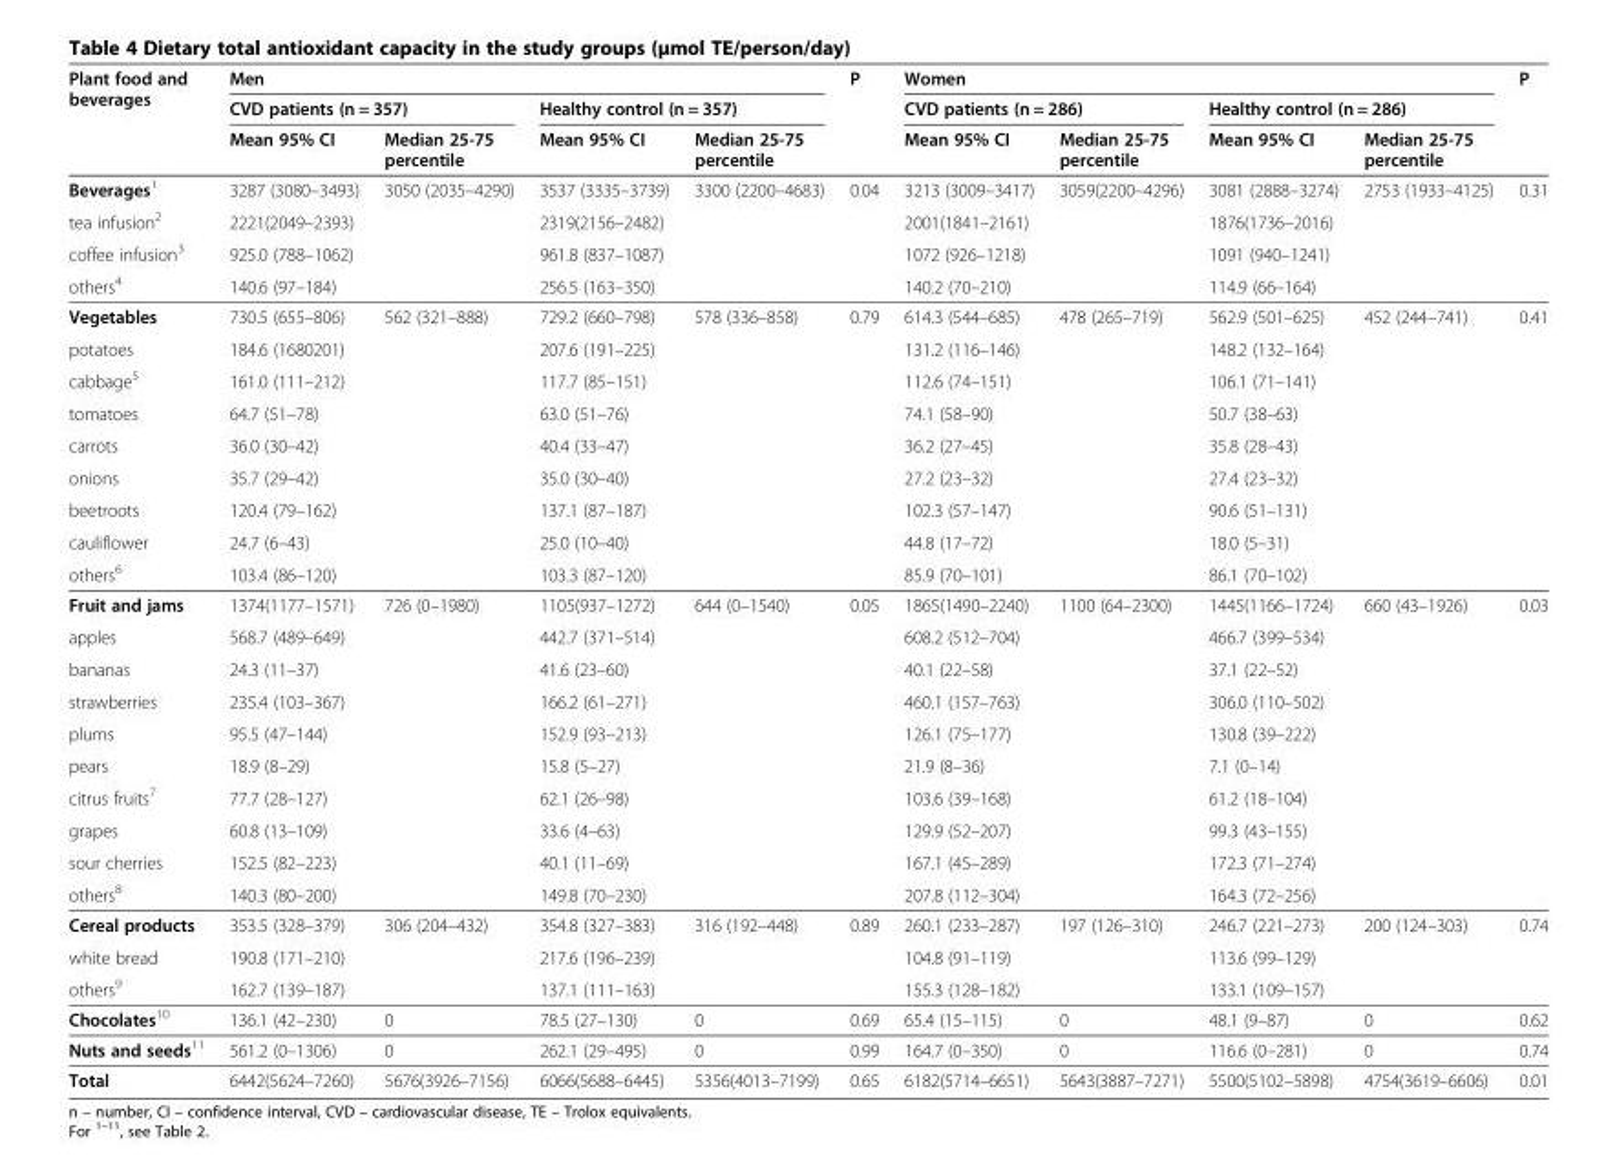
<table><thead><tr><td rowspan="3">Plant food and beverages</td><td colspan="4">Men</td><td rowspan="3">P</td><td colspan="4">Women</td><td rowspan="3">P</td></tr><tr><td colspan="2">CVD patients (n = 357)</td><td colspan="2">Healthy control (n = 357)</td><td colspan="2">CVD patients (n = 286)</td><td colspan="2">Healthy control (n = 286)</td></tr><tr><td>Mean 95% CI</td><td>Median 25-75 percentile</td><td>Mean 95% CI</td><td>Median 25-75 percentile</td><td>Mean 95% CI</td><td>Median 25-75 percentile</td><td>Mean 95% CI</td><td>Median 25-75 percentile</td></tr></thead><tbody><tr><td>Beverages<sup>1</sup></td><td>3287 (3080–3493)</td><td>3050 (2035–4290)</td><td>3537 (3335–3739)</td><td>3300 (2200–4683)</td><td>0.04</td><td>3213 (3009–3417)</td><td>3059(2200–4296)</td><td>3081 (2888–3274)</td><td>2753 (1933–4125)</td><td>0.31</td></tr><tr><td>tea infusion<sup>2</sup></td><td>2221(2049–2393)</td><td></td><td>2319(2156–2482)</td><td></td><td></td><td>2001(1841–2161)</td><td></td><td>1876(1736–2016)</td><td></td><td></td></tr><tr><td>coffee infusion<sup>3</sup></td><td>925.0 (788–1062)</td><td></td><td>961.8 (837–1087)</td><td></td><td></td><td>1072 (926–1218)</td><td></td><td>1091 (940–1241)</td><td></td><td></td></tr><tr><td>others<sup>4</sup></td><td>140.6 (97–184)</td><td></td><td>256.5 (163–350)</td><td></td><td></td><td>140.2 (70–210)</td><td></td><td>114.9 (66–164)</td><td></td><td></td></tr><tr><td>Vegetables</td><td>730.5 (655–806)</td><td>562 (321–888)</td><td>729.2 (660–798)</td><td>578 (336–858)</td><td>0.79</td><td>614.3 (544–685)</td><td>478 (265–719)</td><td>562.9 (501–625)</td><td>452 (244–741)</td><td>0.41</td></tr><tr><td>potatoes</td><td>184.6 (1680201)</td><td></td><td>207.6 (191–225)</td><td></td><td></td><td>131.2 (116–146)</td><td></td><td>148.2 (132–164)</td><td></td><td></td></tr><tr><td>cabbage<sup>5</sup></td><td>161.0 (111–212)</td><td></td><td>117.7 (85–151)</td><td></td><td></td><td>112.6 (74–151)</td><td></td><td>106.1 (71–141)</td><td></td><td></td></tr><tr><td>tomatoes</td><td>64.7 (51–78)</td><td></td><td>63.0 (51–76)</td><td></td><td></td><td>74.1 (58–90)</td><td></td><td>50.7 (38–63)</td><td></td><td></td></tr><tr><td>carrots</td><td>36.0 (30–42)</td><td></td><td>40.4 (33–47)</td><td></td><td></td><td>36.2 (27–45)</td><td></td><td>35.8 (28–43)</td><td></td><td></td></tr><tr><td>onions</td><td>35.7 (29–42)</td><td></td><td>35.0 (30–40)</td><td></td><td></td><td>27.2 (23–32)</td><td></td><td>27.4 (23–32)</td><td></td><td></td></tr><tr><td>beetroots</td><td>120.4 (79–162)</td><td></td><td>137.1 (87–187)</td><td></td><td></td><td>102.3 (57–147)</td><td></td><td>90.6 (51–131)</td><td></td><td></td></tr><tr><td>cauliflower</td><td>24.7 (6–43)</td><td></td><td>25.0 (10–40)</td><td></td><td></td><td>44.8 (17–72)</td><td></td><td>18.0 (5–31)</td><td></td><td></td></tr><tr><td>others<sup>6</sup></td><td>103.4 (86–120)</td><td></td><td>103.3 (87–120)</td><td></td><td></td><td>85.9 (70–101)</td><td></td><td>86.1 (70–102)</td><td></td><td></td></tr><tr><td>Fruit and jams</td><td>1374(1177–1571)</td><td>726 (0–1980)</td><td>1105(937–1272)</td><td>644 (0–1540)</td><td>0.05</td><td>1865(1490–2240)</td><td>1100 (64–2300)</td><td>1445(1166–1724)</td><td>660 (43–1926)</td><td>0.03</td></tr><tr><td>apples</td><td>568.7 (489–649)</td><td></td><td>442.7 (371–514)</td><td></td><td></td><td>608.2 (512–704)</td><td></td><td>466.7 (399–534)</td><td></td><td></td></tr><tr><td>bananas</td><td>24.3 (11–37)</td><td></td><td>41.6 (23–60)</td><td></td><td></td><td>40.1 (22–58)</td><td></td><td>37.1 (22–52)</td><td></td><td></td></tr><tr><td>strawberries</td><td>235.4 (103–367)</td><td></td><td>166.2 (61–271)</td><td></td><td></td><td>460.1 (157–763)</td><td></td><td>306.0 (110–502)</td><td></td><td></td></tr><tr><td>plums</td><td>95.5 (47–144)</td><td></td><td>152.9 (93–213)</td><td></td><td></td><td>126.1 (75–177)</td><td></td><td>130.8 (39–222)</td><td></td><td></td></tr><tr><td>pears</td><td>18.9 (8–29)</td><td></td><td>15.8 (5–27)</td><td></td><td></td><td>21.9 (8–36)</td><td></td><td>7.1 (0–14)</td><td></td><td></td></tr><tr><td>citrus fruits<sup>7</sup></td><td>77.7 (28–127)</td><td></td><td>62.1 (26–98)</td><td></td><td></td><td>103.6 (39–168)</td><td></td><td>61.2 (18–104)</td><td></td><td></td></tr><tr><td>grapes</td><td>60.8 (13–109)</td><td></td><td>33.6 (4–63)</td><td></td><td></td><td>129.9 (52–207)</td><td></td><td>99.3 (43–155)</td><td></td><td></td></tr><tr><td>sour cherries</td><td>152.5 (82–223)</td><td></td><td>40.1 (11–69)</td><td></td><td></td><td>167.1 (45–289)</td><td></td><td>172.3 (71–274)</td><td></td><td></td></tr><tr><td>others<sup>8</sup></td><td>140.3 (80–200)</td><td></td><td>149.8 (70–230)</td><td></td><td></td><td>207.8 (112–304)</td><td></td><td>164.3 (72–256)</td><td></td><td></td></tr><tr><td>Cereal products</td><td>353.5 (328–379)</td><td>306 (204–432)</td><td>354.8 (327–383)</td><td>316 (192–448)</td><td>0.89</td><td>260.1 (233–287)</td><td>197 (126–310)</td><td>246.7 (221–273)</td><td>200 (124–303)</td><td>0.74</td></tr><tr><td>white bread</td><td>190.8 (171–210)</td><td></td><td>217.6 (196–239)</td><td></td><td></td><td>104.8 (91–119)</td><td></td><td>113.6 (99–129)</td><td></td><td></td></tr><tr><td>others<sup>9</sup></td><td>162.7 (139–187)</td><td></td><td>137.1 (111–163)</td><td></td><td></td><td>155.3 (128–182)</td><td></td><td>133.1 (109–157)</td><td></td><td></td></tr><tr><td>Chocolates<sup>10</sup></td><td>136.1 (42–230)</td><td>0</td><td>78.5 (27–130)</td><td>0</td><td>0.69</td><td>65.4 (15–115)</td><td>0</td><td>48.1 (9–87)</td><td>0</td><td>0.62</td></tr><tr><td>Nuts and seeds<sup>11</sup></td><td>561.2 (0–1306)</td><td>0</td><td>262.1 (29–495)</td><td>0</td><td>0.99</td><td>164.7 (0–350)</td><td>0</td><td>116.6 (0–281)</td><td>0</td><td>0.74</td></tr><tr><td>Total</td><td>6442(5624–7260)</td><td>5676(3926–7156)</td><td>6066(5688–6445)</td><td>5356(4013–7199)</td><td>0.65</td><td>6182(5714–6651)</td><td>5643(3887–7271)</td><td>5500(5102–5898)</td><td>4754(3619–6606)</td><td>0.01</td></tr></tbody></table>